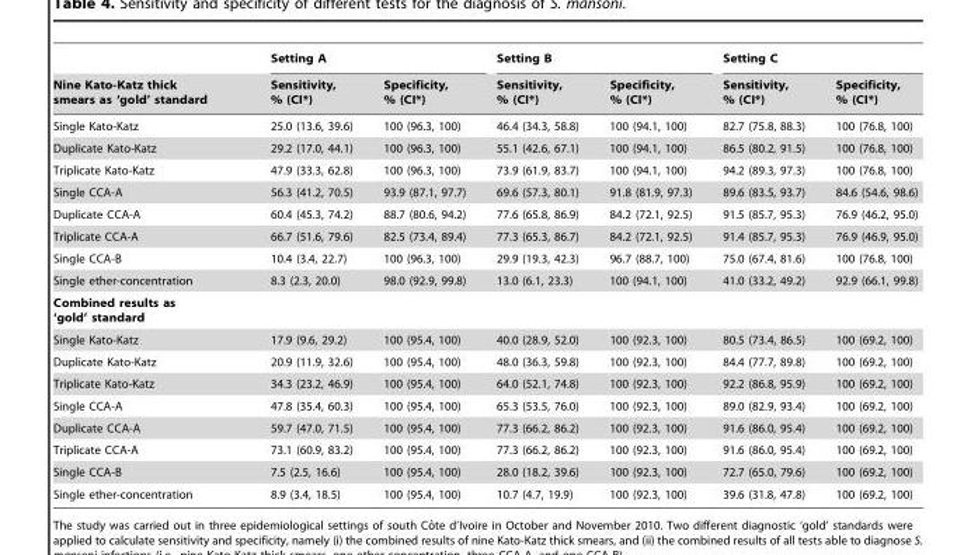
<table><thead><tr><td rowspan="2">Nine Kato-Katz thick smears as ‘gold’ standard</td><td colspan="2">Setting A</td><td colspan="2">Setting B</td><td colspan="2">Setting C</td></tr><tr><td>Sensitivity, % (CI*)</td><td>Specificity, % (CI*)</td><td>Sensitivity, % (CI*)</td><td>Specificity, % (CI*)</td><td>Sensitivity, % (CI*)</td><td>Specificity, % (CI*)</td></tr></thead><tbody><tr><td>Single Kato-Katz</td><td>25.0 (13.6, 39.6)</td><td>100 (96.3, 100)</td><td>46.4 (34.3, 58.8)</td><td>100 (94.1, 100)</td><td>82.7 (75.8, 88.3)</td><td>100 (76.8, 100)</td></tr><tr><td>Duplicate Kato-Katz</td><td>29.2 (17.0, 44.1)</td><td>100 (96.3, 100)</td><td>55.1 (42.6, 67.1)</td><td>100 (94.1, 100)</td><td>86.5 (80.2, 91.5)</td><td>100 (76.8, 100)</td></tr><tr><td>Triplicate Kato-Katz</td><td>47.9 (33.3, 62.8)</td><td>100 (96.3, 100)</td><td>73.9 (61.9, 83.7)</td><td>100 (94.1, 100)</td><td>94.2 (89.3, 97.3)</td><td>100 (76.8, 100)</td></tr><tr><td>Single CCA-A</td><td>56.3 (41.2, 70.5)</td><td>93.9 (87.1, 97.7)</td><td>69.6 (57.3, 80.1)</td><td>91.8 (81.9, 97.3)</td><td>89.6 (83.5, 93.7)</td><td>84.6 (54.6, 98.6)</td></tr><tr><td>Duplicate CCA-A</td><td>60.4 (45.3, 74.2)</td><td>88.7 (80.6, 94.2)</td><td>77.6 (65.8, 86.9)</td><td>84.2 (72.1, 92.5)</td><td>91.5 (85.7, 95.3)</td><td>76.9 (46.2, 95.0)</td></tr><tr><td>Triplicate CCA-A</td><td>66.7 (51.6, 79.6)</td><td>82.5 (73.4, 89.4)</td><td>77.3 (65.3, 86.7)</td><td>84.2 (72.1, 92.5)</td><td>91.4 (85.7, 95.3)</td><td>76.9 (46.9, 95.0)</td></tr><tr><td>Single CCA-B</td><td>10.4 (3.4, 22.7)</td><td>100 (96.3, 100)</td><td>29.9 (19.3, 42.3)</td><td>96.7 (88.7, 100)</td><td>75.0 (67.4, 81.6)</td><td>100 (76.8, 100)</td></tr><tr><td>Single ether-concentration</td><td>8.3 (2.3, 20.0)</td><td>98.0 (92.9, 99.8)</td><td>13.0 (6.1, 23.3)</td><td>100 (94.1, 100)</td><td>41.0 (33.2, 49.2)</td><td>92.9 (66.1, 99.8)</td></tr><tr><td colspan="7">Combined results as ‘gold’ standard</td></tr><tr><td>Single Kato-Katz</td><td>17.9 (9.6, 29.2)</td><td>100 (95.4, 100)</td><td>40.0 (28.9, 52.0)</td><td>100 (92.3, 100)</td><td>80.5 (73.4, 86.5)</td><td>100 (69.2, 100)</td></tr><tr><td>Duplicate Kato-Katz</td><td>20.9 (11.9, 32.6)</td><td>100 (95.4, 100)</td><td>48.0 (36.3, 59.8)</td><td>100 (92.3, 100)</td><td>84.4 (77.7, 89.8)</td><td>100 (69.2, 100)</td></tr><tr><td>Triplicate Kato-Katz</td><td>34.3 (23.2, 46.9)</td><td>100 (95.4, 100)</td><td>64.0 (52.1, 74.8)</td><td>100 (92.3, 100)</td><td>92.2 (86.8, 95.9)</td><td>100 (69.2, 100)</td></tr><tr><td>Single CCA-A</td><td>47.8 (35.4, 60.3)</td><td>100 (95.4, 100)</td><td>65.3 (53.5, 76.0)</td><td>100 (92.3, 100)</td><td>89.0 (82.9, 93.4)</td><td>100 (69.2, 100)</td></tr><tr><td>Duplicate CCA-A</td><td>59.7 (47.0, 71.5)</td><td>100 (95.4, 100)</td><td>77.3 (66.2, 86.2)</td><td>100 (92.3, 100)</td><td>91.6 (86.0, 95.4)</td><td>100 (69.2, 100)</td></tr><tr><td>Triplicate CCA-A</td><td>73.1 (60.9, 83.2)</td><td>100 (95.4, 100)</td><td>77.3 (66.2, 86.2)</td><td>100 (92.3, 100)</td><td>91.6 (86.0, 95.4)</td><td>100 (69.2, 100)</td></tr><tr><td>Single CCA-B</td><td>7.5 (2.5, 16.6)</td><td>100 (95.4, 100)</td><td>28.0 (18.2, 39.6)</td><td>100 (92.3, 100)</td><td>72.7 (65.0, 79.6)</td><td>100 (69.2, 100)</td></tr><tr><td>Single ether-concentration</td><td>8.9 (3.4, 18.5)</td><td>100 (95.4, 100)</td><td>10.7 (4.7, 19.9)</td><td>100 (92.3, 100)</td><td>39.6 (31.8, 47.8)</td><td>100 (69.2, 100)</td></tr></tbody></table>